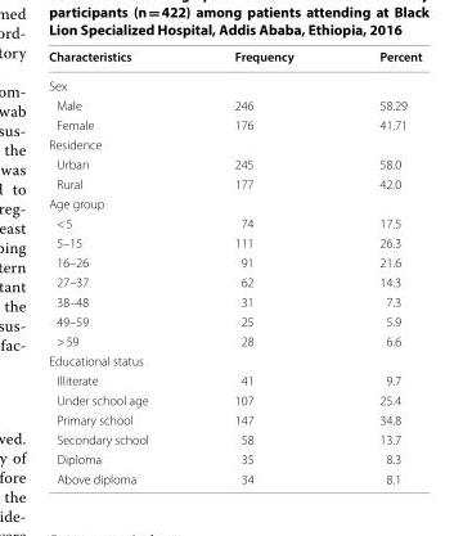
<table><thead><tr><td>Characteristics</td><td>Frequency</td><td>Percent</td></tr></thead><tbody><tr><td colspan="3">Sex</td></tr><tr><td>Male</td><td>246</td><td>58.29</td></tr><tr><td>Female</td><td>176</td><td>41.71</td></tr><tr><td colspan="3">Residence</td></tr><tr><td>Urban</td><td>245</td><td>58.0</td></tr><tr><td>Rural</td><td>177</td><td>42.0</td></tr><tr><td colspan="3">Age group</td></tr><tr><td>&lt; 5</td><td>74</td><td>17.5</td></tr><tr><td>5–15</td><td>111</td><td>26.3</td></tr><tr><td>16–26</td><td>91</td><td>21.6</td></tr><tr><td>27–37</td><td>62</td><td>14.3</td></tr><tr><td>38–48</td><td>31</td><td>7.3</td></tr><tr><td>49–59</td><td>25</td><td>5.9</td></tr><tr><td>&gt; 59</td><td>28</td><td>6.6</td></tr><tr><td colspan="3">Educational status</td></tr><tr><td>Illiterate</td><td>41</td><td>9.7</td></tr><tr><td>Under school age</td><td>107</td><td>25.4</td></tr><tr><td>Primary school</td><td>147</td><td>34.8</td></tr><tr><td>Secondary school</td><td>58</td><td>13.7</td></tr><tr><td>Diploma</td><td>35</td><td>8.3</td></tr><tr><td>Above diploma</td><td>34</td><td>8.1</td></tr></tbody></table>